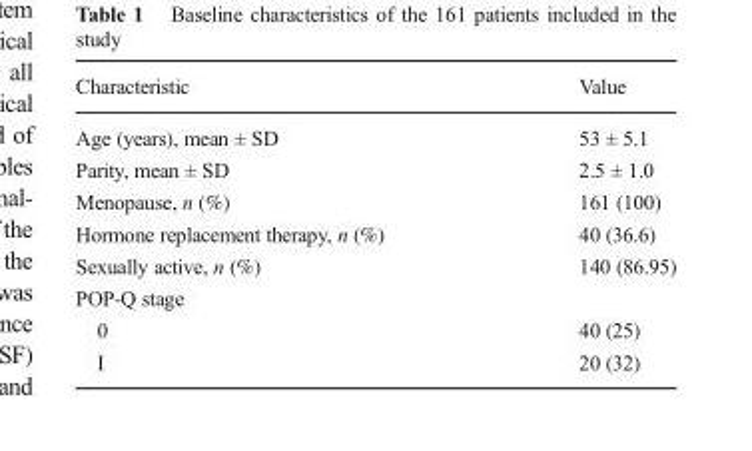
<table><thead><tr><td>Characteristic</td><td>Value</td></tr></thead><tbody><tr><td>Age (years), mean ± SD</td><td>53 ± 5.1</td></tr><tr><td>Parity, mean ± SD</td><td>2.5 ± 1.0</td></tr><tr><td>Menopause, n (%)</td><td>161 (100)</td></tr><tr><td>Hormone replacement therapy, n (%)</td><td>40 (36.6)</td></tr><tr><td>Sexually active, n (%)</td><td>140 (86.95)</td></tr><tr><td colspan="2">POP-Q stage</td></tr><tr><td>0</td><td>40 (25)</td></tr><tr><td>I</td><td>20 (32)</td></tr></tbody></table>